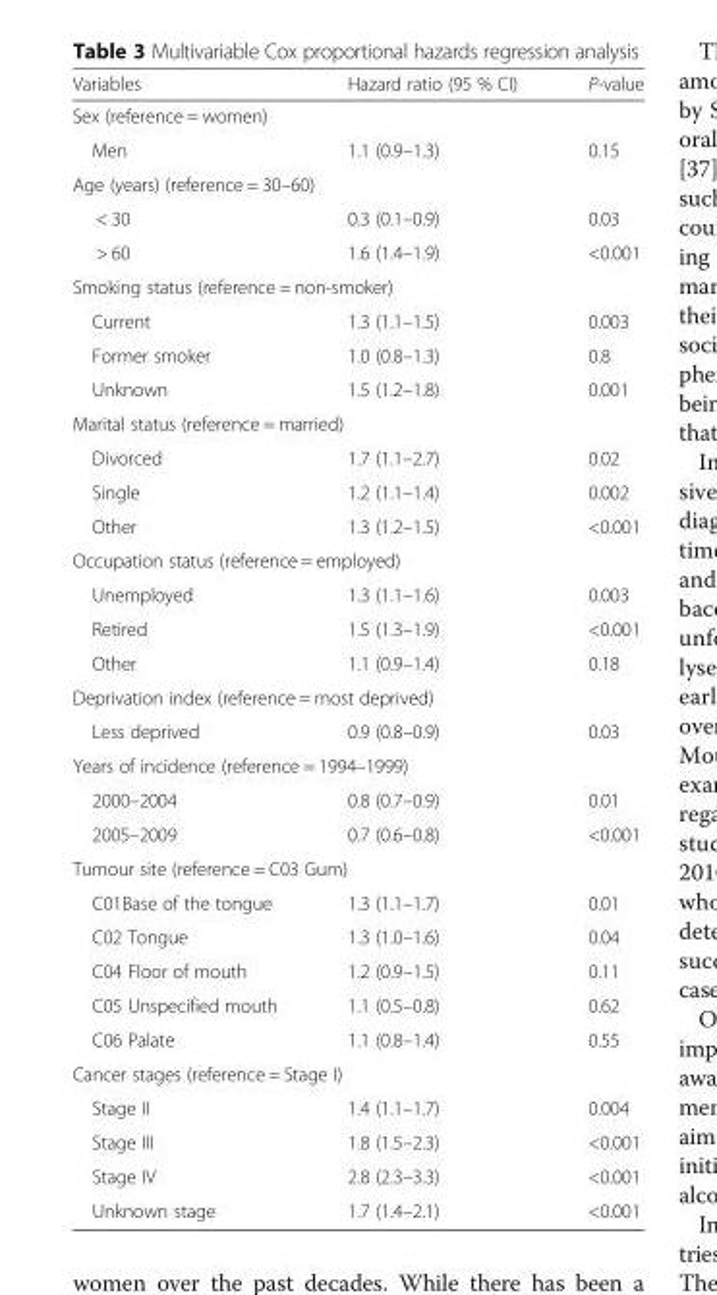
<table><thead><tr><td>Variables</td><td>Hazard ratio (95 % CI)</td><td>P-value</td></tr></thead><tbody><tr><td colspan="3">Sex (reference = women)</td></tr><tr><td>Men</td><td>1.1 (0.9–1.3)</td><td>0.15</td></tr><tr><td colspan="3">Age (years) (reference = 30–60)</td></tr><tr><td>&lt; 30</td><td>0.3 (0.1–0.9)</td><td>0.03</td></tr><tr><td>&gt; 60</td><td>1.6 (1.4–1.9)</td><td>&lt;0.001</td></tr><tr><td colspan="3">Smoking status (reference = non-smoker)</td></tr><tr><td>Current</td><td>1.3 (1.1–1.5)</td><td>0.003</td></tr><tr><td>Former smoker</td><td>1.0 (0.8–1.3)</td><td>0.8</td></tr><tr><td>Unknown</td><td>1.5 (1.2–1.8)</td><td>0.001</td></tr><tr><td colspan="3">Marital status (reference = married)</td></tr><tr><td>Divorced</td><td>1.7 (1.1–2.7)</td><td>0.02</td></tr><tr><td>Single</td><td>1.2 (1.1–1.4)</td><td>0.002</td></tr><tr><td>Other</td><td>1.3 (1.2–1.5)</td><td>&lt;0.001</td></tr><tr><td colspan="3">Occupation status (reference = employed)</td></tr><tr><td>Unemployed</td><td>1.3 (1.1–1.6)</td><td>0.003</td></tr><tr><td>Retired</td><td>1.5 (1.3–1.9)</td><td>&lt;0.001</td></tr><tr><td>Other</td><td>1.1 (0.9–1.4)</td><td>0.18</td></tr><tr><td colspan="3">Deprivation index (reference = most deprived)</td></tr><tr><td>Less deprived</td><td>0.9 (0.8–0.9)</td><td>0.03</td></tr><tr><td colspan="3">Years of incidence (reference = 1994–1999)</td></tr><tr><td>2000–2004</td><td>0.8 (0.7–0.9)</td><td>0.01</td></tr><tr><td>2005–2009</td><td>0.7 (0.6–0.8)</td><td>&lt;0.001</td></tr><tr><td colspan="3">Tumour site (reference = C03 Gum)</td></tr><tr><td>C01Base of the tongue</td><td>1.3 (1.1–1.7)</td><td>0.01</td></tr><tr><td>C02 Tongue</td><td>1.3 (1.0–1.6)</td><td>0.04</td></tr><tr><td>C04 Floor of mouth</td><td>1.2 (0.9–1.5)</td><td>0.11</td></tr><tr><td>C05 Unspecified mouth</td><td>1.1 (0.5–0.8)</td><td>0.62</td></tr><tr><td>C06 Palate</td><td>1.1 (0.8–1.4)</td><td>0.55</td></tr><tr><td colspan="3">Cancer stages (reference = Stage I)</td></tr><tr><td>Stage II</td><td>1.4 (1.1–1.7)</td><td>0.004</td></tr><tr><td>Stage III</td><td>1.8 (1.5–2.3)</td><td>&lt;0.001</td></tr><tr><td>Stage IV</td><td>2.8 (2.3–3.3)</td><td>&lt;0.001</td></tr><tr><td>Unknown stage</td><td>1.7 (1.4–2.1)</td><td>&lt;0.001</td></tr></tbody></table>